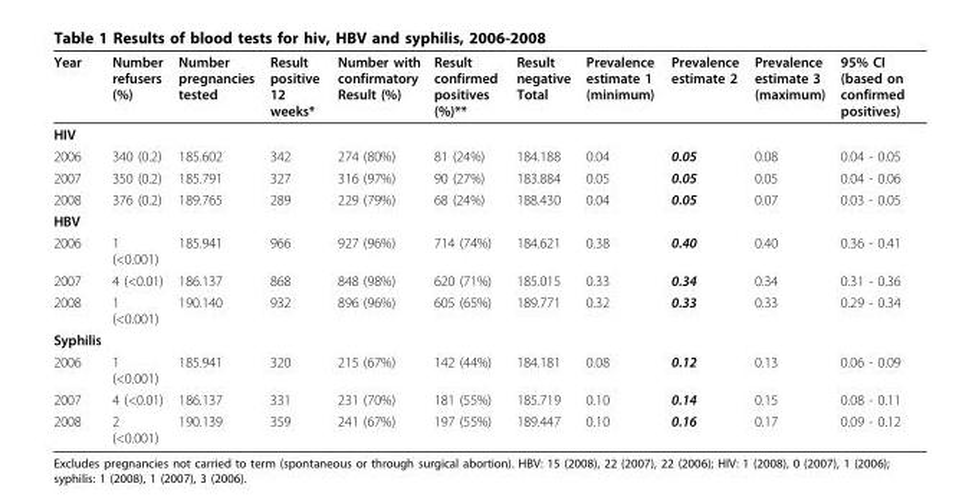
<table><thead><tr><td>Year</td><td>Number refusers (%)</td><td>Number pregnancies tested</td><td>Result positive 12 weeks*</td><td>Number with confirmatory Result (%)</td><td>Result confirmed positives (%)**</td><td>Result negative Total</td><td>Prevalence estimate 1 (minimum)</td><td>Prevalence estimate 2</td><td>Prevalence estimate 3 (maximum)</td><td>95% CI (based on confirmed positives)</td></tr></thead><tbody><tr><td colspan="11">HIV</td></tr><tr><td>2006</td><td>340 (0.2)</td><td>185.602</td><td>342</td><td>274 (80%)</td><td>81 (24%)</td><td>184.188</td><td>0.04</td><td>0.05</td><td>0.08</td><td>0.04 - 0.05</td></tr><tr><td>2007</td><td>350 (0.2)</td><td>185.791</td><td>327</td><td>316 (97%)</td><td>90 (27%)</td><td>183.884</td><td>0.05</td><td>0.05</td><td>0.05</td><td>0.04 - 0.06</td></tr><tr><td>2008</td><td>376 (0.2)</td><td>189.765</td><td>289</td><td>229 (79%)</td><td>68 (24%)</td><td>188.430</td><td>0.04</td><td>0.05</td><td>0.07</td><td>0.03 - 0.05</td></tr><tr><td colspan="11">HBV</td></tr><tr><td>2006</td><td>1 (&lt;0.001)</td><td>185.941</td><td>966</td><td>927 (96%)</td><td>714 (74%)</td><td>184.621</td><td>0.38</td><td>0.40</td><td>0.40</td><td>0.36 - 0.41</td></tr><tr><td>2007</td><td>4 (&lt;0.01)</td><td>186.137</td><td>868</td><td>848 (98%)</td><td>620 (71%)</td><td>185.015</td><td>0.33</td><td>0.34</td><td>0.34</td><td>0.31 - 0.36</td></tr><tr><td>2008</td><td>1 (&lt;0.001)</td><td>190.140</td><td>932</td><td>896 (96%)</td><td>605 (65%)</td><td>189.771</td><td>0.32</td><td>0.33</td><td>0.33</td><td>0.29 - 0.34</td></tr><tr><td colspan="11">Syphilis</td></tr><tr><td>2006</td><td>1 (&lt;0.001)</td><td>185.941</td><td>320</td><td>215 (67%)</td><td>142 (44%)</td><td>184.181</td><td>0.08</td><td>0.12</td><td>0.13</td><td>0.06 - 0.09</td></tr><tr><td>2007</td><td>4 (&lt;0.01)</td><td>186.137</td><td>331</td><td>231 (70%)</td><td>181 (55%)</td><td>185.719</td><td>0.10</td><td>0.14</td><td>0.15</td><td>0.08 - 0.11</td></tr><tr><td>2008</td><td>2 (&lt;0.001)</td><td>190.139</td><td>359</td><td>241 (67%)</td><td>197 (55%)</td><td>189.447</td><td>0.10</td><td>0.16</td><td>0.17</td><td>0.09 - 0.12</td></tr></tbody></table>